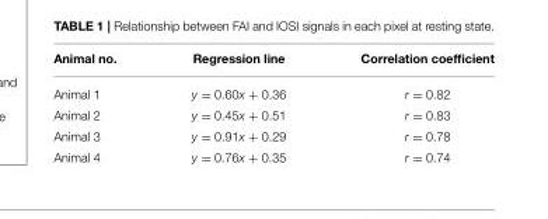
<table><thead><tr><td>Animal no.</td><td>Regression line</td><td>Correlation coefficient</td></tr></thead><tbody><tr><td>Animal 1</td><td>y = 0.60x + 0.36</td><td>r = 0.82</td></tr><tr><td>Animal 2</td><td>y = 0.45x + 0.51</td><td>r = 0.83</td></tr><tr><td>Animal 3</td><td>y = 0.91x + 0.29</td><td>r = 0.78</td></tr><tr><td>Animal 4</td><td>y = 0.76x + 0.35</td><td>r = 0.74</td></tr></tbody></table>